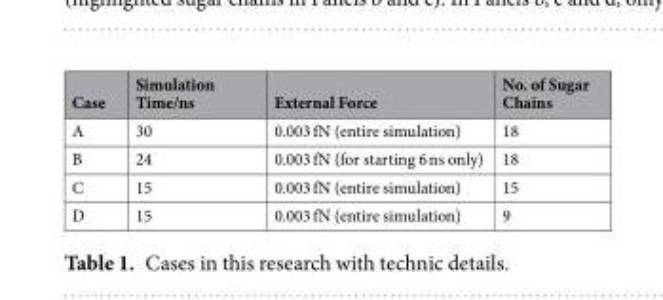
<table><thead><tr><td>Case</td><td>Simulation Time/ns</td><td>External Force</td><td>No. of Sugar Chains</td></tr></thead><tbody><tr><td>A</td><td>30</td><td>0.003 fN (entire simulation)</td><td>18</td></tr><tr><td>B</td><td>24</td><td>0.003 fN (for starting 6 ns only)</td><td>18</td></tr><tr><td>C</td><td>15</td><td>0.003 fN (entire simulation)</td><td>15</td></tr><tr><td>D</td><td>15</td><td>0.003 fN (entire simulation)</td><td>9</td></tr></tbody></table>